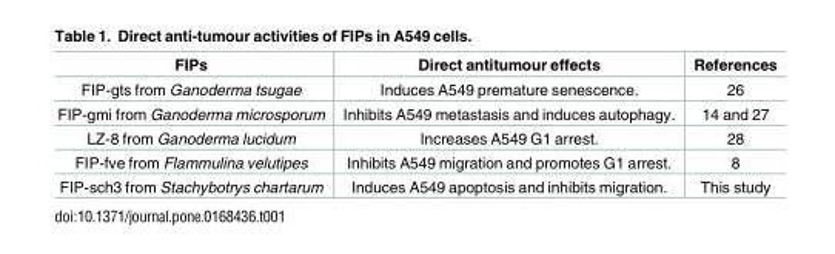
<table><thead><tr><td>FIPs</td><td>Direct antitumour effects</td><td>References</td></tr></thead><tbody><tr><td>FIP-gts from Ganoderma tsugae</td><td>Induces A549 premature senescence.</td><td>26</td></tr><tr><td>FIP-gmi from Ganoderma microsporum</td><td>Inhibits A549 metastasis and induces autophagy.</td><td>14 and 27</td></tr><tr><td>LZ-8 from Ganoderma lucidum</td><td>Increases A549 G1 arrest.</td><td>28</td></tr><tr><td>FIP-fve from Flammulina velutipes</td><td>Inhibits A549 migration and promotes G1 arrest.</td><td>8</td></tr><tr><td>FIP-sch3 from Stachybotrys chartarum</td><td>Induces A549 apoptosis and inhibits migration.</td><td>This study</td></tr></tbody></table>